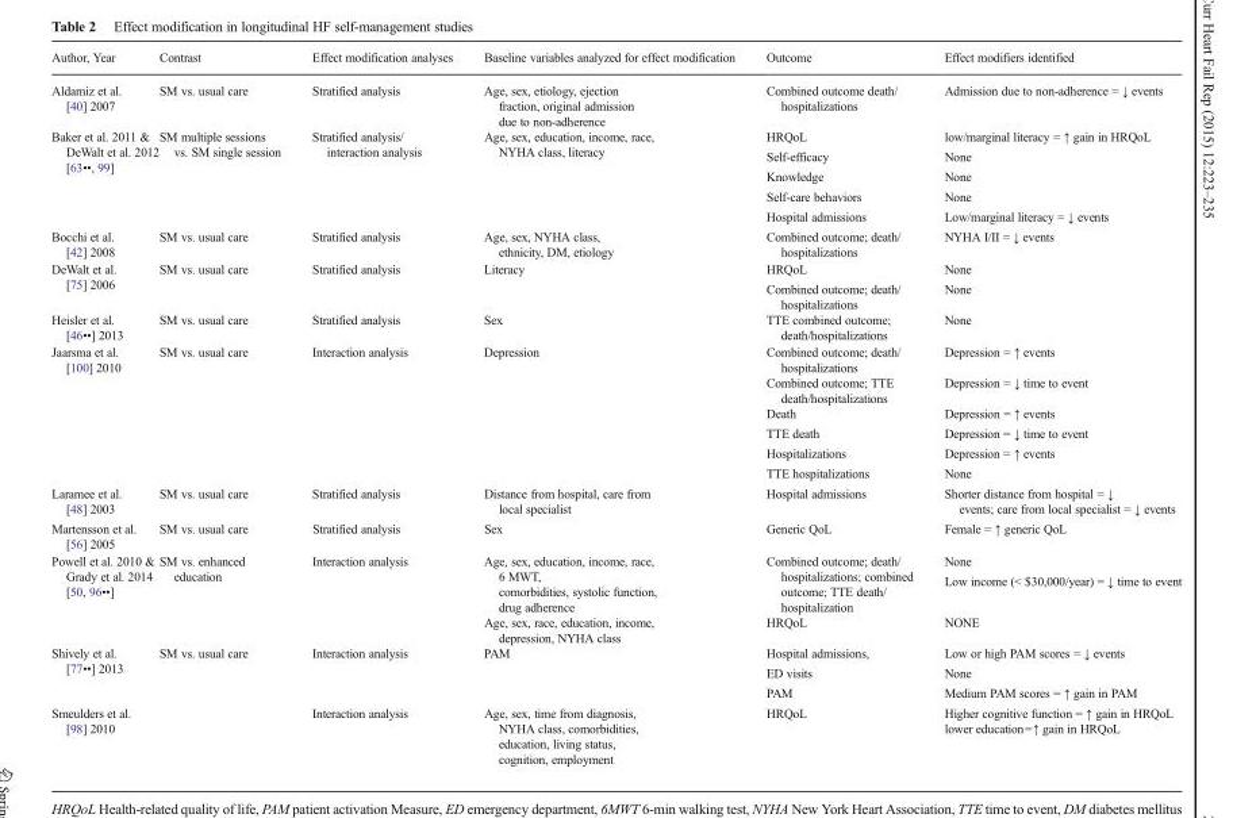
<table><thead><tr><td>Author, Year</td><td>Contrast</td><td>Effect modification analyses</td><td>Baseline variables analyzed for effect modification</td><td>Outcome</td><td>Effect modifiers identified</td></tr></thead><tbody><tr><td>Aldamiz et al. [40] 2007</td><td>SM vs. usual care</td><td>Stratified analysis</td><td>Age, sex, etiology, ejection fraction, original admission due to non-adherence</td><td>Combined outcome death/ hospitalizations</td><td>Admission due to non-adherence = ↓ events</td></tr><tr><td rowspan="5">Baker et al. 2011 &amp; DeWalt et al. 2012 [63••, 99]</td><td rowspan="5">SM multiple sessions vs. SM single session</td><td rowspan="5">Stratified analysis/ interaction analysis</td><td rowspan="5">Age, sex, education, income, race, NYHA class, literacy</td><td>HRQoL</td><td>low/marginal literacy = ↑ gain in HRQoL</td></tr><tr><td>Self-efficacy</td><td>None</td></tr><tr><td>Knowledge</td><td>None</td></tr><tr><td>Self-care behaviors</td><td>None</td></tr><tr><td>Hospital admissions</td><td>Low/marginal literacy = ↓ events</td></tr><tr><td>Bocchi et al. [42] 2008</td><td>SM vs. usual care</td><td>Stratified analysis</td><td>Age, sex, NYHA class, ethnicity, DM, etiology</td><td>Combined outcome; death/ hospitalizations</td><td>NYHA I/II = ↓ events</td></tr><tr><td rowspan="2">DeWalt et al. [75] 2006</td><td rowspan="2">SM vs. usual care</td><td rowspan="2">Stratified analysis</td><td rowspan="2">Literacy</td><td>HRQoL</td><td>None</td></tr><tr><td>Combined outcome; death/ hospitalizations</td><td>None</td></tr><tr><td>Heisler et al. [46••] 2013</td><td>SM vs. usual care</td><td>Stratified analysis</td><td>Sex</td><td>TTE combined outcome; death/hospitalizations</td><td>None</td></tr><tr><td rowspan="6">Jaarsma et al. [100] 2010</td><td rowspan="6">SM vs. usual care</td><td rowspan="6">Interaction analysis</td><td rowspan="6">Depression</td><td>Combined outcome; death/ hospitalizations</td><td>Depression = ↑ events</td></tr><tr><td>Combined outcome; TTE death/hospitalizations</td><td>Depression = ↓ time to event</td></tr><tr><td>Death</td><td>Depression = ↑ events</td></tr><tr><td>TTE death</td><td>Depression = ↓ time to event</td></tr><tr><td>Hospitalizations</td><td>Depression = ↑ events</td></tr><tr><td>TTE hospitalizations</td><td>None</td></tr><tr><td>Laramee et al. [48] 2003</td><td>SM vs. usual care</td><td>Stratified analysis</td><td>Distance from hospital, care from local specialist</td><td>Hospital admissions</td><td>Shorter distance from hospital = ↓ events; care from local specialist = ↓ events</td></tr><tr><td>Martensson et al. [56] 2005</td><td>SM vs. usual care</td><td>Stratified analysis</td><td>Sex</td><td>Generic QoL</td><td>Female = ↑ generic QoL</td></tr><tr><td rowspan="3">Powell et al. 2010 &amp; Grady et al. 2014 [50, 96••]</td><td rowspan="3">SM vs. enhanced education</td><td rowspan="3">Interaction analysis</td><td rowspan="2">Age, sex, education, income, race, 6 MWT, comorbidities, systolic function, drug adherence</td><td rowspan="2">Combined outcome; death/ hospitalizations; combined outcome; TTE death/ hospitalization</td><td>None</td></tr><tr><td>Low income (&lt; $30,000/year) = ↓ time to event</td></tr><tr><td>Age, sex, race, education, income, depression, NYHA class</td><td>HRQoL</td><td>NONE</td></tr><tr><td rowspan="3">Shively et al. [77••] 2013</td><td rowspan="3">SM vs. usual care</td><td rowspan="3">Interaction analysis</td><td rowspan="3">PAM</td><td>Hospital admissions,</td><td>Low or high PAM scores = ↓ events</td></tr><tr><td>ED visits</td><td>None</td></tr><tr><td>PAM</td><td>Medium PAM scores = ↑ gain in PAM</td></tr><tr><td>Smeulders et al. [98] 2010</td><td></td><td>Interaction analysis</td><td>Age, sex, time from diagnosis, NYHA class, comorbidities, education, living status, cognition, employment</td><td>HRQoL</td><td>Higher cognitive function = ↑ gain in HRQoL lower education=↑ gain in HRQoL</td></tr></tbody></table>